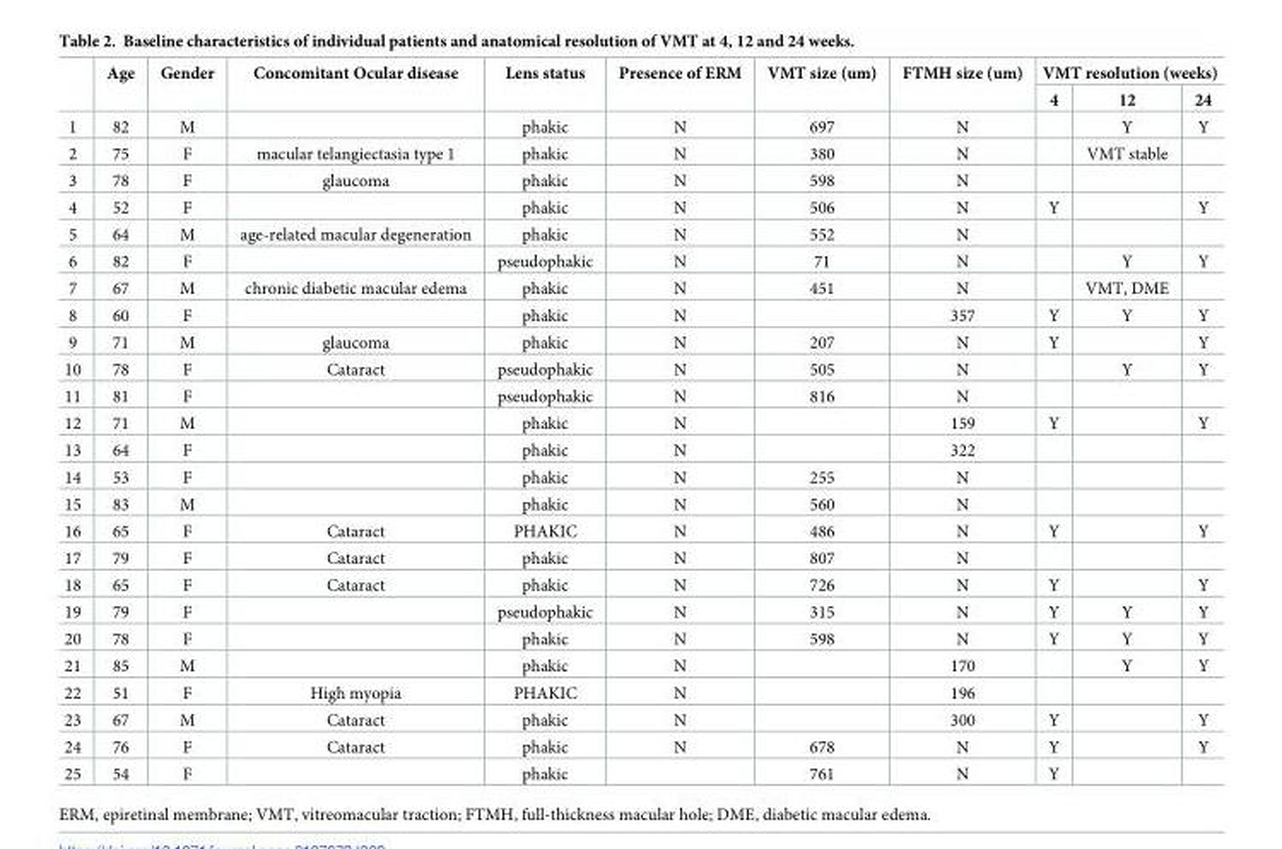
<table><thead><tr><td rowspan="2"></td><td rowspan="2">Age</td><td rowspan="2">Gender</td><td rowspan="2">Concomitant Ocular disease</td><td rowspan="2">Lens status</td><td rowspan="2">Presence of ERM</td><td rowspan="2">VMT size (um)</td><td rowspan="2">FTMH size (um)</td><td colspan="3">VMT resolution (weeks)</td></tr><tr><td>4</td><td>12</td><td>24</td></tr></thead><tbody><tr><td>1</td><td>82</td><td>M</td><td></td><td>phakic</td><td>N</td><td>697</td><td>N</td><td></td><td>Y</td><td>Y</td></tr><tr><td>2</td><td>75</td><td>F</td><td>macular telangiectasia type 1</td><td>phakic</td><td>N</td><td>380</td><td>N</td><td></td><td>VMT stable</td><td></td></tr><tr><td>3</td><td>78</td><td>F</td><td>glaucoma</td><td>phakic</td><td>N</td><td>598</td><td>N</td><td></td><td></td><td></td></tr><tr><td>4</td><td>52</td><td>F</td><td></td><td>phakic</td><td>N</td><td>506</td><td>N</td><td>Y</td><td></td><td>Y</td></tr><tr><td>5</td><td>64</td><td>M</td><td>age-related macular degeneration</td><td>phakic</td><td>N</td><td>552</td><td>N</td><td></td><td></td><td></td></tr><tr><td>6</td><td>82</td><td>F</td><td></td><td>pseudophakic</td><td>N</td><td>71</td><td>N</td><td></td><td>Y</td><td>Y</td></tr><tr><td>7</td><td>67</td><td>M</td><td>chronic diabetic macular edema</td><td>phakic</td><td>N</td><td>451</td><td>N</td><td></td><td>VMT, DME</td><td></td></tr><tr><td>8</td><td>60</td><td>F</td><td></td><td>phakic</td><td>N</td><td></td><td>357</td><td>Y</td><td>Y</td><td>Y</td></tr><tr><td>9</td><td>71</td><td>M</td><td>glaucoma</td><td>phakic</td><td>N</td><td>207</td><td>N</td><td>Y</td><td></td><td>Y</td></tr><tr><td>10</td><td>78</td><td>F</td><td>Cataract</td><td>pseudophakic</td><td>N</td><td>505</td><td>N</td><td></td><td>Y</td><td>Y</td></tr><tr><td>11</td><td>81</td><td>F</td><td></td><td>pseudophakic</td><td>N</td><td>816</td><td>N</td><td></td><td></td><td></td></tr><tr><td>12</td><td>71</td><td>M</td><td></td><td>phakic</td><td>N</td><td></td><td>159</td><td>Y</td><td></td><td>Y</td></tr><tr><td>13</td><td>64</td><td>F</td><td></td><td>phakic</td><td>N</td><td></td><td>322</td><td></td><td></td><td></td></tr><tr><td>14</td><td>53</td><td>F</td><td></td><td>phakic</td><td>N</td><td>255</td><td>N</td><td></td><td></td><td></td></tr><tr><td>15</td><td>83</td><td>M</td><td></td><td>phakic</td><td>N</td><td>560</td><td>N</td><td></td><td></td><td></td></tr><tr><td>16</td><td>65</td><td>F</td><td>Cataract</td><td>PHAKIC</td><td>N</td><td>486</td><td>N</td><td>Y</td><td></td><td>Y</td></tr><tr><td>17</td><td>79</td><td>F</td><td>Cataract</td><td>phakic</td><td>N</td><td>807</td><td>N</td><td></td><td></td><td></td></tr><tr><td>18</td><td>65</td><td>F</td><td>Cataract</td><td>phakic</td><td>N</td><td>726</td><td>N</td><td>Y</td><td></td><td>Y</td></tr><tr><td>19</td><td>79</td><td>F</td><td></td><td>pseudophakic</td><td>N</td><td>315</td><td>N</td><td>Y</td><td>Y</td><td>Y</td></tr><tr><td>20</td><td>78</td><td>F</td><td></td><td>phakic</td><td>N</td><td>598</td><td>N</td><td>Y</td><td>Y</td><td>Y</td></tr><tr><td>21</td><td>85</td><td>M</td><td></td><td>phakic</td><td>N</td><td></td><td>170</td><td></td><td>Y</td><td>Y</td></tr><tr><td>22</td><td>51</td><td>F</td><td>High myopia</td><td>PHAKIC</td><td>N</td><td></td><td>196</td><td></td><td></td><td></td></tr><tr><td>23</td><td>67</td><td>M</td><td>Cataract</td><td>phakic</td><td>N</td><td></td><td>300</td><td>Y</td><td></td><td>Y</td></tr><tr><td>24</td><td>76</td><td>F</td><td>Cataract</td><td>phakic</td><td>N</td><td>678</td><td>N</td><td>Y</td><td></td><td>Y</td></tr><tr><td>25</td><td>54</td><td>F</td><td></td><td>phakic</td><td></td><td>761</td><td>N</td><td>Y</td><td></td><td></td></tr></tbody></table>